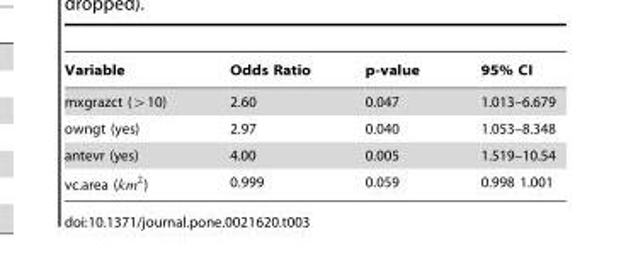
<table><thead><tr><td>Variable</td><td>Odds Ratio</td><td>p-value</td><td>95% CI</td></tr></thead><tbody><tr><td>mxgrazct (w10)</td><td>2.60</td><td>0.047</td><td>1.013–6.679</td></tr><tr><td>owngt (yes)</td><td>2.97</td><td>0.040</td><td>1.053–8.348</td></tr><tr><td>antevr (yes)</td><td>4.00</td><td>0.005</td><td>1.519–10.54</td></tr><tr><td>vc.area (km2)</td><td>0.999</td><td>0.059</td><td>0.998 1.001</td></tr></tbody></table>